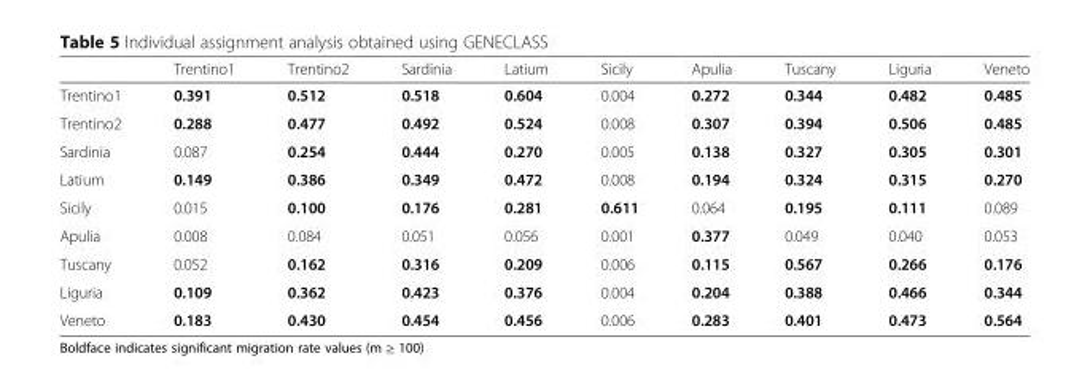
<table><thead><tr><td></td><td>Trentino1</td><td>Trentino2</td><td>Sardinia</td><td>Latium</td><td>Sicily</td><td>Apulia</td><td>Tuscany</td><td>Liguria</td><td>Veneto</td></tr></thead><tbody><tr><td>Trentino1</td><td>0.391</td><td>0.512</td><td>0.518</td><td>0.604</td><td>0.004</td><td>0.272</td><td>0.344</td><td>0.482</td><td>0.485</td></tr><tr><td>Trentino2</td><td>0.288</td><td>0.477</td><td>0.492</td><td>0.524</td><td>0.008</td><td>0.307</td><td>0.394</td><td>0.506</td><td>0.485</td></tr><tr><td>Sardinia</td><td>0.087</td><td>0.254</td><td>0.444</td><td>0.270</td><td>0.005</td><td>0.138</td><td>0.327</td><td>0.305</td><td>0.301</td></tr><tr><td>Latium</td><td>0.149</td><td>0.386</td><td>0.349</td><td>0.472</td><td>0.008</td><td>0.194</td><td>0.324</td><td>0.315</td><td>0.270</td></tr><tr><td>Sicily</td><td>0.015</td><td>0.100</td><td>0.176</td><td>0.281</td><td>0.611</td><td>0.064</td><td>0.195</td><td>0.111</td><td>0.089</td></tr><tr><td>Apulia</td><td>0.008</td><td>0.084</td><td>0.051</td><td>0.056</td><td>0.001</td><td>0.377</td><td>0.049</td><td>0.040</td><td>0.053</td></tr><tr><td>Tuscany</td><td>0.052</td><td>0.162</td><td>0.316</td><td>0.209</td><td>0.006</td><td>0.115</td><td>0.567</td><td>0.266</td><td>0.176</td></tr><tr><td>Liguria</td><td>0.109</td><td>0.362</td><td>0.423</td><td>0.376</td><td>0.004</td><td>0.204</td><td>0.388</td><td>0.466</td><td>0.344</td></tr><tr><td>Veneto</td><td>0.183</td><td>0.430</td><td>0.454</td><td>0.456</td><td>0.006</td><td>0.283</td><td>0.401</td><td>0.473</td><td>0.564</td></tr></tbody></table>